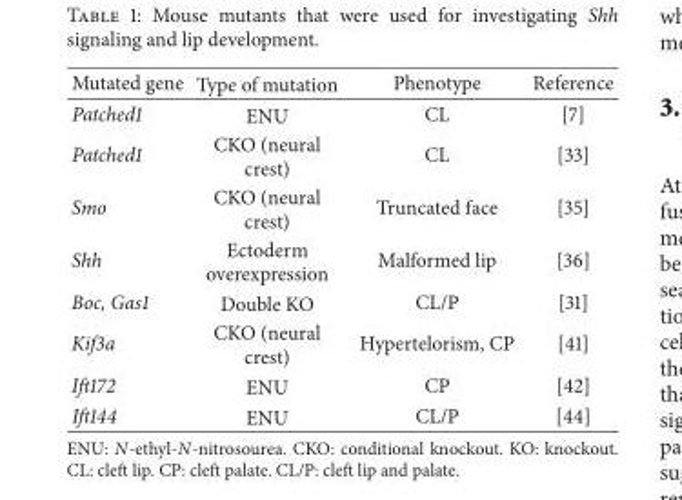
<table><thead><tr><td>Mutated gene</td><td>Type of mutation</td><td>Phenotype</td><td>Reference</td></tr></thead><tbody><tr><td>Patched1</td><td>ENU</td><td>CL</td><td>[7]</td></tr><tr><td>Patched1</td><td>CKO (neural crest)</td><td>CL</td><td>[33]</td></tr><tr><td>Smo</td><td>CKO (neural crest)</td><td>Truncated face</td><td>[35]</td></tr><tr><td>Shh</td><td>Ectoderm overexpression</td><td>Malformed lip</td><td>[36]</td></tr><tr><td>Boc, Gas1</td><td>Double KO</td><td>CL/P</td><td>[31]</td></tr><tr><td>Kif3a</td><td>CKO (neural crest)</td><td>Hypertelorism, CP</td><td>[41]</td></tr><tr><td>Ift172</td><td>ENU</td><td>CP</td><td>[42]</td></tr><tr><td>Ift144</td><td>ENU</td><td>CL/P</td><td>[44]</td></tr></tbody></table>